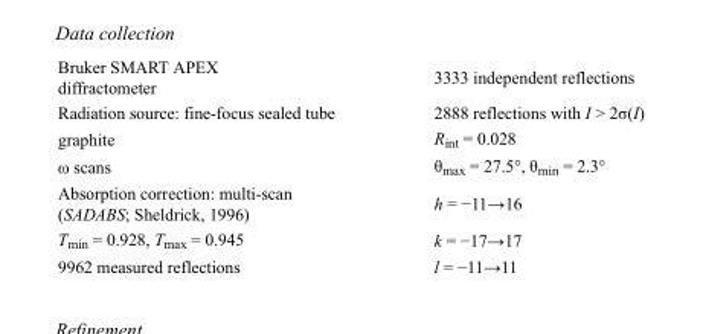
<table><tbody><tr><td>Bruker SMART APEX diffractometer</td><td>3333 independent reflections</td></tr><tr><td>Radiation source: fine-focus sealed tube</td><td>2888 reflections with I &gt; 2σ(I)</td></tr><tr><td>graphite</td><td>R<sub>int</sub> = 0.028</td></tr><tr><td>ω scans</td><td>θ<sub>max</sub> = 27.5°, θ<sub>min</sub> = 2.3°</td></tr><tr><td>Absorption correction: multi-scan (SADABS; Sheldrick, 1996)</td><td>h = −11→16</td></tr><tr><td>T<sub>min</sub> = 0.928, T<sub>max</sub> = 0.945</td><td>k = −17→17</td></tr><tr><td>9962 measured reflections</td><td>l = −11→11</td></tr></tbody></table>